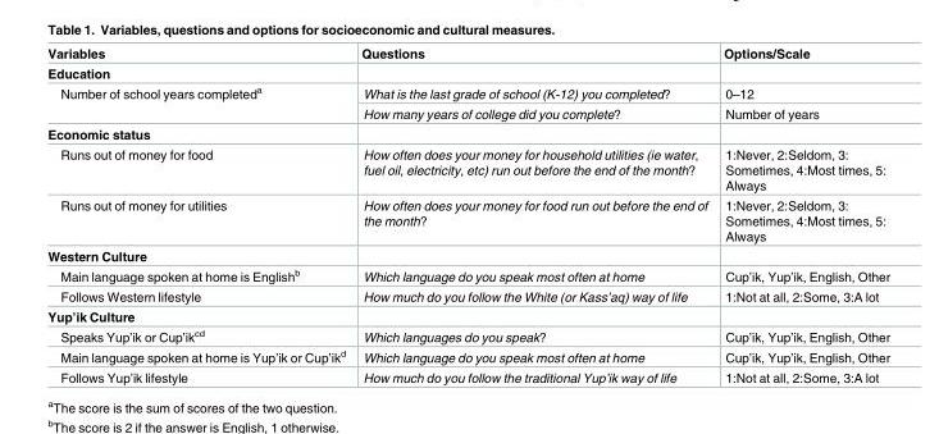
<table><thead><tr><td>Variables</td><td>Questions</td><td>Options/Scale</td></tr></thead><tbody><tr><td colspan="3">Education</td></tr><tr><td rowspan="2">Number of school years completed<sup>a</sup></td><td>What is the last grade of school (K-12) you completed?</td><td>0–12</td></tr><tr><td>How many years of college did you complete?</td><td>Number of years</td></tr><tr><td colspan="3">Economic status</td></tr><tr><td>Runs out of money for food</td><td>How often does your money for household utilities (ie water, fuel oil, electricity, etc) run out before the end of the month?</td><td>1:Never, 2:Seldom, 3: Sometimes, 4:Most times, 5: Always</td></tr><tr><td>Runs out of money for utilities</td><td>How often does your money for food run out before the end of the month?</td><td>1:Never, 2:Seldom, 3: Sometimes, 4:Most times, 5: Always</td></tr><tr><td colspan="3">Western Culture</td></tr><tr><td>Main language spoken at home is English<sup>b</sup></td><td>Which language do you speak most often at home</td><td>Cup’ik, Yup’ik, English, Other</td></tr><tr><td>Follows Western lifestyle</td><td>How much do you follow the White (or Kass’aq) way of life</td><td>1:Not at all, 2:Some, 3:A lot</td></tr><tr><td colspan="3">Yup’ik Culture</td></tr><tr><td>Speaks Yup’ik or Cup’ik<sup>cd</sup></td><td>Which languages do you speak?</td><td>Cup’ik, Yup’ik, English, Other</td></tr><tr><td>Main language spoken at home is Yup’ik or Cup’ik<sup>d</sup></td><td>Which language do you speak most often at home</td><td>Cup’ik, Yup’ik, English, Other</td></tr><tr><td>Follows Yup’ik lifestyle</td><td>How much do you follow the traditional Yup’ik way of life</td><td>1:Not at all, 2:Some, 3:A lot</td></tr></tbody></table>